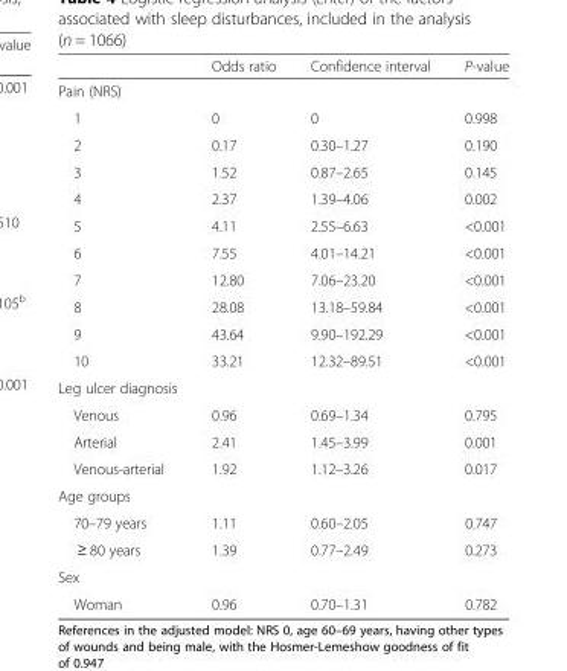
<table><thead><tr><td></td><td>Odds ratio</td><td>Confidence interval</td><td>P-value</td></tr></thead><tbody><tr><td colspan="4">Pain (NRS)</td></tr><tr><td>1</td><td>0</td><td>0</td><td>0.998</td></tr><tr><td>2</td><td>0.17</td><td>0.30–1.27</td><td>0.190</td></tr><tr><td>3</td><td>1.52</td><td>0.87–2.65</td><td>0.145</td></tr><tr><td>4</td><td>2.37</td><td>1.39–4.06</td><td>0.002</td></tr><tr><td>5</td><td>4.11</td><td>2.55–6.63</td><td>&lt;0.001</td></tr><tr><td>6</td><td>7.55</td><td>4.01–14.21</td><td>&lt;0.001</td></tr><tr><td>7</td><td>12.80</td><td>7.06–23.20</td><td>&lt;0.001</td></tr><tr><td>8</td><td>28.08</td><td>13.18–59.84</td><td>&lt;0.001</td></tr><tr><td>9</td><td>43.64</td><td>9.90–192.29</td><td>&lt;0.001</td></tr><tr><td>10</td><td>33.21</td><td>12.32–89.51</td><td>&lt;0.001</td></tr><tr><td colspan="4">Leg ulcer diagnosis</td></tr><tr><td>Venous</td><td>0.96</td><td>0.69–1.34</td><td>0.795</td></tr><tr><td>Arterial</td><td>2.41</td><td>1.45–3.99</td><td>0.001</td></tr><tr><td>Venous-arterial</td><td>1.92</td><td>1.12–3.26</td><td>0.017</td></tr><tr><td colspan="4">Age groups</td></tr><tr><td>70–79 years</td><td>1.11</td><td>0.60–2.05</td><td>0.747</td></tr><tr><td>≥ 80 years</td><td>1.39</td><td>0.77–2.49</td><td>0.273</td></tr><tr><td colspan="4">Sex</td></tr><tr><td>Woman</td><td>0.96</td><td>0.70–1.31</td><td>0.782</td></tr></tbody></table>